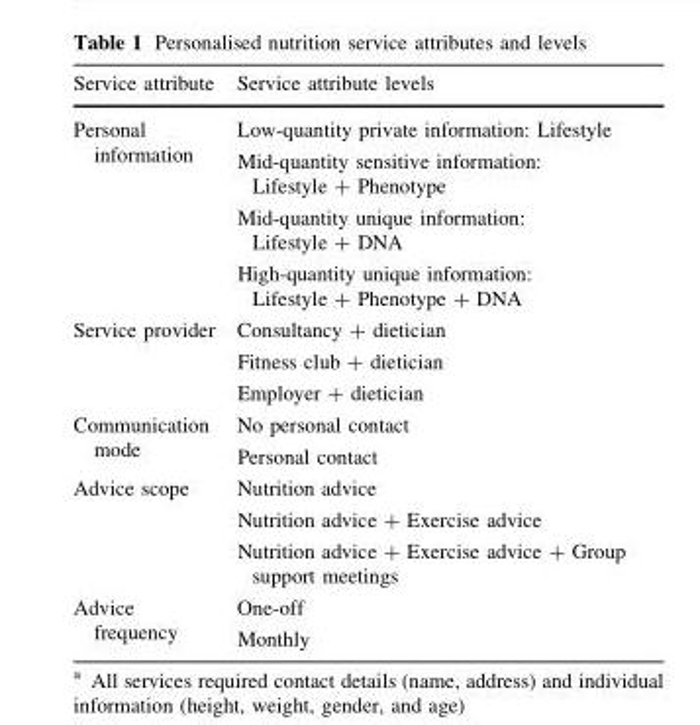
<table><thead><tr><td>Service attribute</td><td>Service attribute levels</td></tr></thead><tbody><tr><td>Personal information</td><td>Low-quantity private information: Lifestyle Mid-quantity sensitive information: Lifestyle + Phenotype Mid-quantity unique information: Lifestyle + DNA High-quantity unique information: Lifestyle + Phenotype + DNA</td></tr><tr><td>Service provider</td><td>Consultancy + dietician Fitness club + dietician Employer + dietician</td></tr><tr><td>Communication mode</td><td>No personal contact Personal contact</td></tr><tr><td>Advice scope</td><td>Nutrition advice Nutrition advice + Exercise advice Nutrition advice + Exercise advice + Group support meetings</td></tr><tr><td>Advice frequency</td><td>One-off Monthly</td></tr></tbody></table>